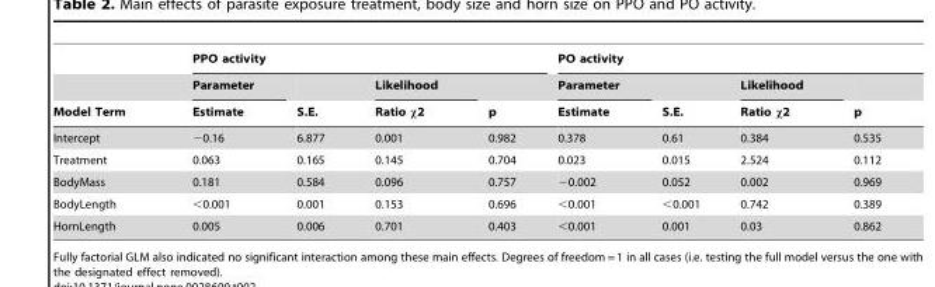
<table><thead><tr><td rowspan="3">Model Term</td><td colspan="4">PPO activity</td><td colspan="4">PO activity</td></tr><tr><td rowspan="2">Parameter Estimate</td><td rowspan="2">S.E.</td><td rowspan="2">Likelihood Ratio χ2</td><td rowspan="2">p</td><td rowspan="2">Parameter Estimate</td><td rowspan="2">S.E.</td><td rowspan="2">Likelihood Ratio χ2</td><td rowspan="2">p</td></tr><tr></tr></thead><tbody><tr><td>Intercept</td><td>−0.16</td><td>6.877</td><td>0.001</td><td>0.982</td><td>0.378</td><td>0.61</td><td>0.384</td><td>0.535</td></tr><tr><td>Treatment</td><td>0.063</td><td>0.165</td><td>0.145</td><td>0.704</td><td>0.023</td><td>0.015</td><td>2.524</td><td>0.112</td></tr><tr><td>BodyMass</td><td>0.181</td><td>0.584</td><td>0.096</td><td>0.757</td><td>−0.002</td><td>0.052</td><td>0.002</td><td>0.969</td></tr><tr><td>BodyLength</td><td>&lt;0.001</td><td>0.001</td><td>0.153</td><td>0.696</td><td>&lt;0.001</td><td>&lt;0.001</td><td>0.742</td><td>0.389</td></tr><tr><td>HornLength</td><td>0.005</td><td>0.006</td><td>0.701</td><td>0.403</td><td>&lt;0.001</td><td>0.001</td><td>0.03</td><td>0.862</td></tr></tbody></table>